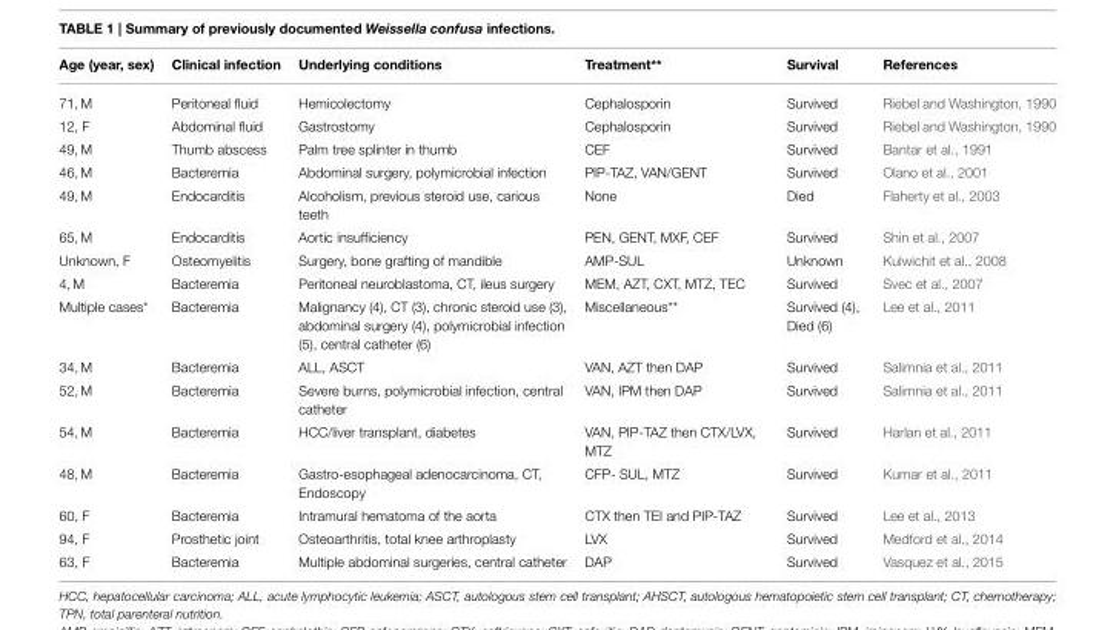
<table><thead><tr><td>Age (year, sex)</td><td>Clinical infection</td><td>Underlying conditions</td><td>Treatment**</td><td>Survival</td><td>References</td></tr></thead><tbody><tr><td>71, M</td><td>Peritoneal fluid</td><td>Hemicolectomy</td><td>Cephalosporin</td><td>Survived</td><td>Riebel and Washington, 1990</td></tr><tr><td>12, F</td><td>Abdominal fluid</td><td>Gastrostomy</td><td>Cephalosporin</td><td>Survived</td><td>Riebel and Washington, 1990</td></tr><tr><td>49, M</td><td>Thumb abscess</td><td>Palm tree splinter in thumb</td><td>CEF</td><td>Survived</td><td>Bantar et al., 1991</td></tr><tr><td>46, M</td><td>Bacteremia</td><td>Abdominal surgery, polymicrobial infection</td><td>PIP-TAZ, VAN/GENT</td><td>Survived</td><td>Olano et al., 2001</td></tr><tr><td>49, M</td><td>Endocarditis</td><td>Alcoholism, previous steroid use, carious teeth</td><td>None</td><td>Died</td><td>Flaherty et al., 2003</td></tr><tr><td>65, M</td><td>Endocarditis</td><td>Aortic insufficiency</td><td>PEN, GENT, MXF, CEF</td><td>Survived</td><td>Shin et al., 2007</td></tr><tr><td>Unknown, F</td><td>Osteomyelitis</td><td>Surgery, bone grafting of mandible</td><td>AMP-SUL</td><td>Unknown</td><td>Kulwichit et al., 2008</td></tr><tr><td>4, M</td><td>Bacteremia</td><td>Peritoneal neuroblastoma, CT, ileus surgery</td><td>MEM, AZT, CXT, MTZ, TEC</td><td>Survived</td><td>Svec et al., 2007</td></tr><tr><td>Multiple cases*</td><td>Bacteremia</td><td>Malignancy (4), CT (3), chronic steroid use (3), abdominal surgery (4), polymicrobial infection (5), central catheter (6)</td><td>Miscellaneous**</td><td>Survived (4), Died (6)</td><td>Lee et al., 2011</td></tr><tr><td>34, M</td><td>Bacteremia</td><td>ALL, ASCT</td><td>VAN, AZT then DAP</td><td>Survived</td><td>Salimnia et al., 2011</td></tr><tr><td>52, M</td><td>Bacteremia</td><td>Severe burns, polymicrobial infection, central catheter</td><td>VAN, IPM then DAP</td><td>Survived</td><td>Salimnia et al., 2011</td></tr><tr><td>54, M</td><td>Bacteremia</td><td>HCC/liver transplant, diabetes</td><td>VAN, PIP-TAZ then CTX/LVX, MTZ</td><td>Survived</td><td>Harlan et al., 2011</td></tr><tr><td>48, M</td><td>Bacteremia</td><td>Gastro-esophageal adenocarcinoma, CT, Endoscopy</td><td>CFP- SUL, MTZ</td><td>Survived</td><td>Kumar et al., 2011</td></tr><tr><td>60, F</td><td>Bacteremia</td><td>Intramural hematoma of the aorta</td><td>CTX then TEI and PIP-TAZ</td><td>Survived</td><td>Lee et al., 2013</td></tr><tr><td>94, F</td><td>Prosthetic joint</td><td>Osteoarthritis, total knee arthroplasty</td><td>LVX</td><td>Survived</td><td>Medford et al., 2014</td></tr><tr><td>63, F</td><td>Bacteremia</td><td>Multiple abdominal surgeries, central catheter</td><td>DAP</td><td>Survived</td><td>Vasquez et al., 2015</td></tr></tbody></table>